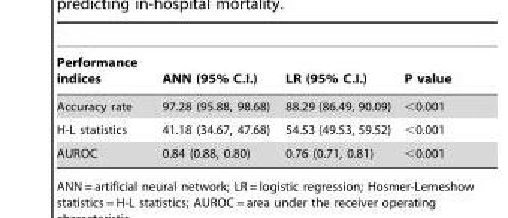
<table><thead><tr><td>Performance indices</td><td>ANN (95% C.I.)</td><td>LR (95% C.I.)</td><td>P value</td></tr></thead><tbody><tr><td>Accuracy rate</td><td>97.28 (95.88, 98.68)</td><td>88.29 (86.49, 90.09)</td><td>&lt;0.001</td></tr><tr><td>H-L statistics</td><td>41.18 (34.67, 47.68)</td><td>54.53 (49.53, 59.52)</td><td>&lt;0.001</td></tr><tr><td>AUROC</td><td>0.84 (0.88, 0.80)</td><td>0.76 (0.71, 0.81)</td><td>&lt;0.001</td></tr></tbody></table>